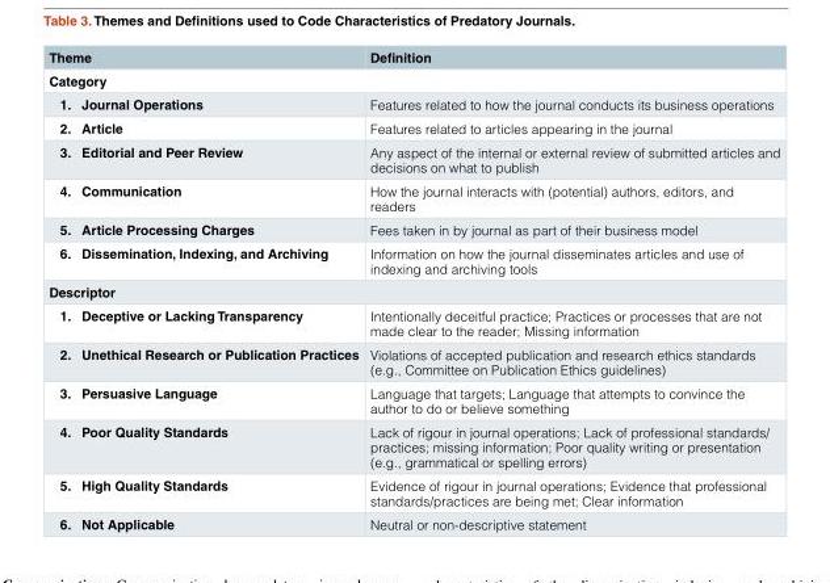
<table><thead><tr><td>Theme</td><td>Definition</td></tr></thead><tbody><tr><td colspan="2">Category</td></tr><tr><td>1. Journal Operations</td><td>Features related to how the journal conducts its business operations</td></tr><tr><td>2. Article</td><td>Features related to articles appearing in the journal</td></tr><tr><td>3. Editorial and Peer Review</td><td>Any aspect of the internal or external review of submitted articles and decisions on what to publish</td></tr><tr><td>4. Communication</td><td>How the journal interacts with (potential) authors, editors, and readers</td></tr><tr><td>5. Article Processing Charges</td><td>Fees taken in by journal as part of their business model</td></tr><tr><td>6. Dissemination, Indexing, and Archiving</td><td>Information on how the journal disseminates articles and use of indexing and archiving tools</td></tr><tr><td colspan="2">Descriptor</td></tr><tr><td>1. Deceptive or Lacking Transparency</td><td>Intentionally deceitful practice; Practices or processes that are not made clear to the reader; Missing information</td></tr><tr><td>2. Unethical Research or Publication Practices</td><td>Violations of accepted publication and research ethics standards (e.g., Committee on Publication Ethics guidelines)</td></tr><tr><td>3. Persuasive Language</td><td>Language that targets; Language that attempts to convince the author to do or believe something</td></tr><tr><td>4. Poor Quality Standards</td><td>Lack of rigour in journal operations; Lack of professional standards/ practices; missing information; Poor quality writing or presentation (e.g., grammatical or spelling errors)</td></tr><tr><td>5. High Quality Standards</td><td>Evidence of rigour in journal operations; Evidence that professional standards/practices are being met; Clear information</td></tr><tr><td>6. Not Applicable</td><td>Neutral or non-descriptive statement</td></tr></tbody></table>